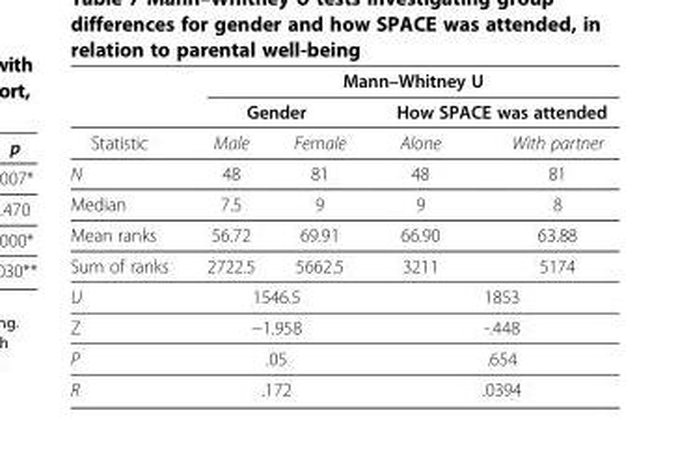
<table><thead><tr><td rowspan="3">Statistic</td><td colspan="4">Mann–Whitney U</td></tr><tr><td colspan="2">Gender</td><td colspan="2">How SPACE was attended</td></tr><tr><td>Male</td><td>Female</td><td>Alone</td><td>With partner</td></tr></thead><tbody><tr><td>N</td><td>48</td><td>81</td><td>48</td><td>81</td></tr><tr><td>Median</td><td>7.5</td><td>9</td><td>9</td><td>8</td></tr><tr><td>Mean ranks</td><td>56.72</td><td>69.91</td><td>66.90</td><td>63.88</td></tr><tr><td>Sum of ranks</td><td>2722.5</td><td>5662.5</td><td>3211</td><td>5174</td></tr><tr><td>U</td><td colspan="2">1546.5</td><td colspan="2">1853</td></tr><tr><td>Z</td><td colspan="2">−1.958</td><td colspan="2">-.448</td></tr><tr><td>P</td><td colspan="2">.05</td><td colspan="2">.654</td></tr><tr><td>R</td><td colspan="2">.172</td><td colspan="2">.0394</td></tr></tbody></table>